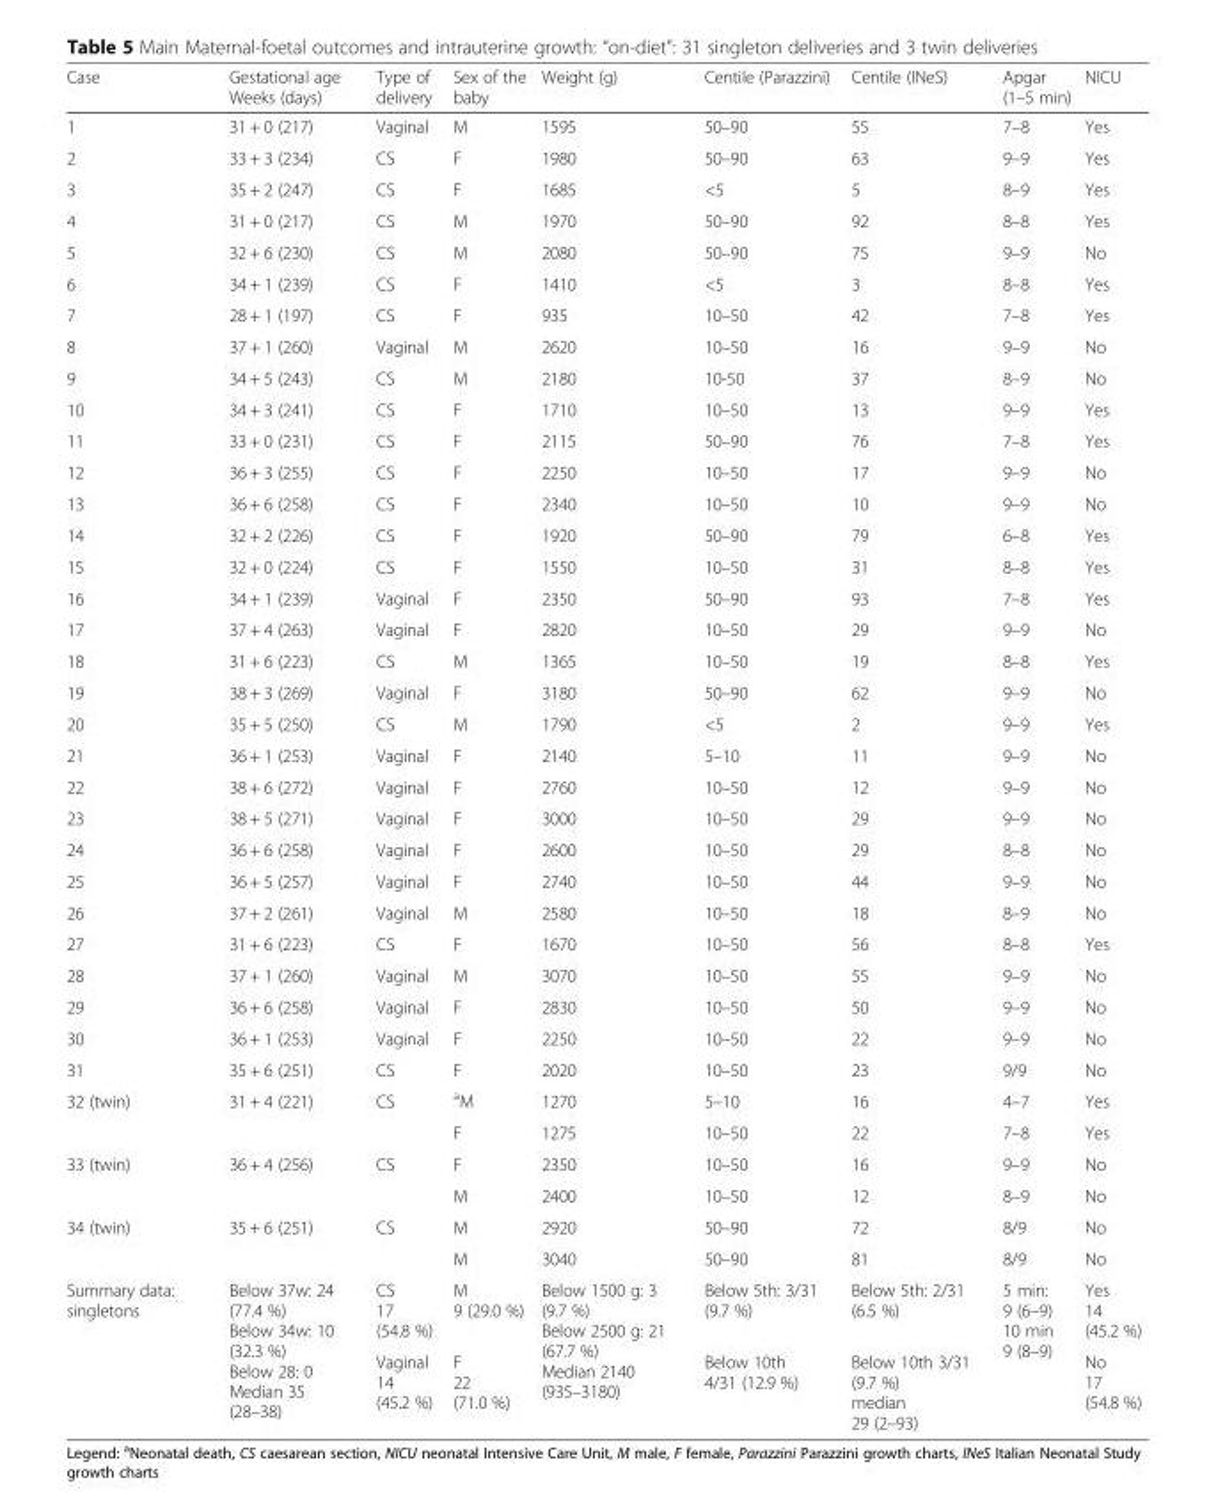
<table><thead><tr><td>Case</td><td>Gestational age Weeks (days)</td><td>Type of delivery</td><td>Sex of the baby</td><td>Weight (g)</td><td>Centile (Parazzini)</td><td>Centile (INeS)</td><td>Apgar (1–5 min)</td><td>NICU</td></tr></thead><tbody><tr><td>1</td><td>31 + 0 (217)</td><td>Vaginal</td><td>M</td><td>1595</td><td>50–90</td><td>55</td><td>7–8</td><td>Yes</td></tr><tr><td>2</td><td>33 + 3 (234)</td><td>CS</td><td>F</td><td>1980</td><td>50–90</td><td>63</td><td>9–9</td><td>Yes</td></tr><tr><td>3</td><td>35 + 2 (247)</td><td>CS</td><td>F</td><td>1685</td><td>&lt;5</td><td>5</td><td>8–9</td><td>Yes</td></tr><tr><td>4</td><td>31 + 0 (217)</td><td>CS</td><td>M</td><td>1970</td><td>50–90</td><td>92</td><td>8–8</td><td>Yes</td></tr><tr><td>5</td><td>32 + 6 (230)</td><td>CS</td><td>M</td><td>2080</td><td>50–90</td><td>75</td><td>9–9</td><td>No</td></tr><tr><td>6</td><td>34 + 1 (239)</td><td>CS</td><td>F</td><td>1410</td><td>&lt;5</td><td>3</td><td>8–8</td><td>Yes</td></tr><tr><td>7</td><td>28 + 1 (197)</td><td>CS</td><td>F</td><td>935</td><td>10–50</td><td>42</td><td>7–8</td><td>Yes</td></tr><tr><td>8</td><td>37 + 1 (260)</td><td>Vaginal</td><td>M</td><td>2620</td><td>10–50</td><td>16</td><td>9–9</td><td>No</td></tr><tr><td>9</td><td>34 + 5 (243)</td><td>CS</td><td>M</td><td>2180</td><td>10-50</td><td>37</td><td>8–9</td><td>No</td></tr><tr><td>10</td><td>34 + 3 (241)</td><td>CS</td><td>F</td><td>1710</td><td>10–50</td><td>13</td><td>9–9</td><td>Yes</td></tr><tr><td>11</td><td>33 + 0 (231)</td><td>CS</td><td>F</td><td>2115</td><td>50–90</td><td>76</td><td>7–8</td><td>Yes</td></tr><tr><td>12</td><td>36 + 3 (255)</td><td>CS</td><td>F</td><td>2250</td><td>10–50</td><td>17</td><td>9–9</td><td>No</td></tr><tr><td>13</td><td>36 + 6 (258)</td><td>CS</td><td>F</td><td>2340</td><td>10–50</td><td>10</td><td>9–9</td><td>No</td></tr><tr><td>14</td><td>32 + 2 (226)</td><td>CS</td><td>F</td><td>1920</td><td>50–90</td><td>79</td><td>6–8</td><td>Yes</td></tr><tr><td>15</td><td>32 + 0 (224)</td><td>CS</td><td>F</td><td>1550</td><td>10–50</td><td>31</td><td>8–8</td><td>Yes</td></tr><tr><td>16</td><td>34 + 1 (239)</td><td>Vaginal</td><td>F</td><td>2350</td><td>50–90</td><td>93</td><td>7–8</td><td>Yes</td></tr><tr><td>17</td><td>37 + 4 (263)</td><td>Vaginal</td><td>F</td><td>2820</td><td>10–50</td><td>29</td><td>9–9</td><td>No</td></tr><tr><td>18</td><td>31 + 6 (223)</td><td>CS</td><td>M</td><td>1365</td><td>10–50</td><td>19</td><td>8–8</td><td>Yes</td></tr><tr><td>19</td><td>38 + 3 (269)</td><td>Vaginal</td><td>F</td><td>3180</td><td>50–90</td><td>62</td><td>9–9</td><td>No</td></tr><tr><td>20</td><td>35 + 5 (250)</td><td>CS</td><td>M</td><td>1790</td><td>&lt;5</td><td>2</td><td>9–9</td><td>Yes</td></tr><tr><td>21</td><td>36 + 1 (253)</td><td>Vaginal</td><td>F</td><td>2140</td><td>5–10</td><td>11</td><td>9–9</td><td>No</td></tr><tr><td>22</td><td>38 + 6 (272)</td><td>Vaginal</td><td>F</td><td>2760</td><td>10–50</td><td>12</td><td>9–9</td><td>No</td></tr><tr><td>23</td><td>38 + 5 (271)</td><td>Vaginal</td><td>F</td><td>3000</td><td>10–50</td><td>29</td><td>9–9</td><td>No</td></tr><tr><td>24</td><td>36 + 6 (258)</td><td>Vaginal</td><td>F</td><td>2600</td><td>10–50</td><td>29</td><td>8–8</td><td>No</td></tr><tr><td>25</td><td>36 + 5 (257)</td><td>Vaginal</td><td>F</td><td>2740</td><td>10–50</td><td>44</td><td>9–9</td><td>No</td></tr><tr><td>26</td><td>37 + 2 (261)</td><td>Vaginal</td><td>M</td><td>2580</td><td>10–50</td><td>18</td><td>8–9</td><td>No</td></tr><tr><td>27</td><td>31 + 6 (223)</td><td>CS</td><td>F</td><td>1670</td><td>10–50</td><td>56</td><td>8–8</td><td>Yes</td></tr><tr><td>28</td><td>37 + 1 (260)</td><td>Vaginal</td><td>M</td><td>3070</td><td>10–50</td><td>55</td><td>9–9</td><td>No</td></tr><tr><td>29</td><td>36 + 6 (258)</td><td>Vaginal</td><td>F</td><td>2830</td><td>10–50</td><td>50</td><td>9–9</td><td>No</td></tr><tr><td>30</td><td>36 + 1 (253)</td><td>Vaginal</td><td>F</td><td>2250</td><td>10–50</td><td>22</td><td>9–9</td><td>No</td></tr><tr><td>31</td><td>35 + 6 (251)</td><td>CS</td><td>F</td><td>2020</td><td>10–50</td><td>23</td><td>9/9</td><td>No</td></tr><tr><td rowspan="2">32 (twin)</td><td rowspan="2">31 + 4 (221)</td><td rowspan="2">CS</td><td><sup>a</sup>M</td><td>1270</td><td>5–10</td><td>16</td><td>4–7</td><td>Yes</td></tr><tr><td>F</td><td>1275</td><td>10–50</td><td>22</td><td>7–8</td><td>Yes</td></tr><tr><td rowspan="2">33 (twin)</td><td rowspan="2">36 + 4 (256)</td><td rowspan="2">CS</td><td>F</td><td>2350</td><td>10–50</td><td>16</td><td>9–9</td><td>No</td></tr><tr><td>M</td><td>2400</td><td>10–50</td><td>12</td><td>8–9</td><td>No</td></tr><tr><td rowspan="2">34 (twin)</td><td rowspan="2">35 + 6 (251)</td><td rowspan="2">CS</td><td>M</td><td>2920</td><td>50–90</td><td>72</td><td>8/9</td><td>No</td></tr><tr><td>M</td><td>3040</td><td>50–90</td><td>81</td><td>8/9</td><td>No</td></tr><tr><td rowspan="2">Summary data: singletons</td><td rowspan="2">Below 37w: 24 (77.4 %) Below 34w: 10 (32.3 %) Below 28: 0 Median 35 (28–38)</td><td>CS 17 (54.8 %)</td><td>M 9 (29.0 %)</td><td rowspan="2">Below 1500 g: 3 (9.7 %) Below 2500 g: 21 (67.7 %) Median 2140 (935–3180)</td><td>Below 5th: 3/31 (9.7 %)</td><td>Below 5th: 2/31 (6.5 %)</td><td rowspan="2">5 min: 9 (6–9) 10 min 9 (8–9)</td><td>Yes 14 (45.2 %)</td></tr><tr><td>Vaginal 14 (45.2 %)</td><td>F 22 (71.0 %)</td><td>Below 10th 4/31 (12.9 %)</td><td>Below 10th 3/31 (9.7 %) median 29 (2–93)</td><td>No 17 (54.8 %)</td></tr></tbody></table>